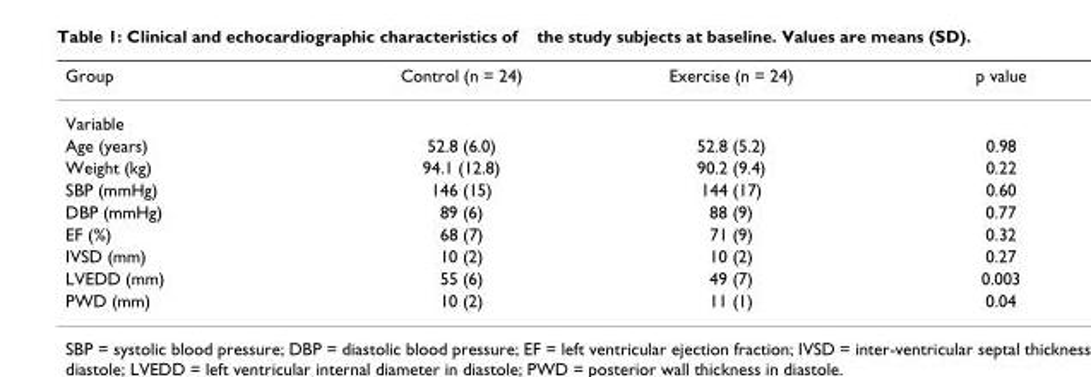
<table><thead><tr><td>Group</td><td>Control (n = 24)</td><td>Exercise (n = 24)</td><td>p value</td></tr></thead><tbody><tr><td colspan="4">Variable</td></tr><tr><td>Age (years)</td><td>52.8 (6.0)</td><td>52.8 (5.2)</td><td>0.98</td></tr><tr><td>Weight (kg)</td><td>94.1 (12.8)</td><td>90.2 (9.4)</td><td>0.22</td></tr><tr><td>SBP (mmHg)</td><td>146 (15)</td><td>144 (17)</td><td>0.60</td></tr><tr><td>DBP (mmHg)</td><td>89 (6)</td><td>88 (9)</td><td>0.77</td></tr><tr><td>EF (%)</td><td>68 (7)</td><td>71 (9)</td><td>0.32</td></tr><tr><td>IVSD (mm)</td><td>10 (2)</td><td>10 (2)</td><td>0.27</td></tr><tr><td>LVEDD (mm)</td><td>55 (6)</td><td>49 (7)</td><td>0.003</td></tr><tr><td>PWD (mm)</td><td>10 (2)</td><td>11 (1)</td><td>0.04</td></tr></tbody></table>